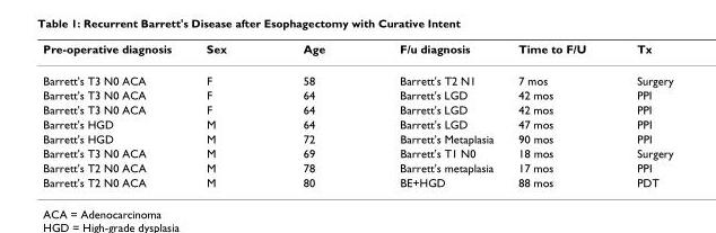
<table><thead><tr><td>Pre-operative diagnosis</td><td>Sex</td><td>Age</td><td>F/u diagnosis</td><td>Time to F/U</td><td>Tx</td></tr></thead><tbody><tr><td>Barrett&#x27;s T3 N0 ACA</td><td>F</td><td>58</td><td>Barrett&#x27;s T2 N1</td><td>7 mos</td><td>Surgery</td></tr><tr><td>Barrett&#x27;s T3 N0 ACA</td><td>F</td><td>64</td><td>Barrett&#x27;s LGD</td><td>42 mos</td><td>PPI</td></tr><tr><td>Barrett&#x27;s T3 N0 ACA</td><td>F</td><td>64</td><td>Barrett&#x27;s LGD</td><td>42 mos</td><td>PPI</td></tr><tr><td>Barrett&#x27;s HGD</td><td>M</td><td>64</td><td>Barrett&#x27;s LGD</td><td>47 mos</td><td>PPI</td></tr><tr><td>Barrett&#x27;s HGD</td><td>M</td><td>72</td><td>Barrett&#x27;s Metaplasia</td><td>90 mos</td><td>PPI</td></tr><tr><td>Barrett&#x27;s T3 N0 ACA</td><td>M</td><td>69</td><td>Barrett&#x27;s T1 N0</td><td>18 mos</td><td>Surgery</td></tr><tr><td>Barrett&#x27;s T2 N0 ACA</td><td>M</td><td>78</td><td>Barrett&#x27;s metaplasia</td><td>17 mos</td><td>PPI</td></tr><tr><td>Barrett&#x27;s T2 N0 ACA</td><td>M</td><td>80</td><td>BE+HGD</td><td>88 mos</td><td>PDT</td></tr></tbody></table>